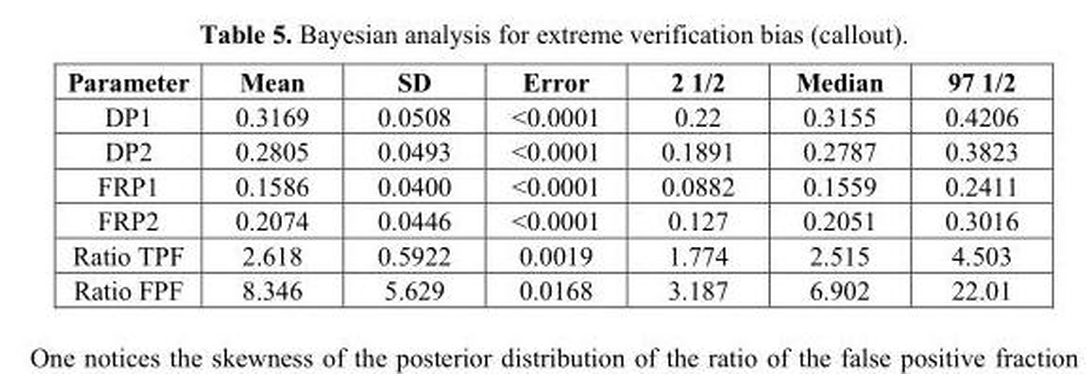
<table><thead><tr><td>Parameter</td><td>Mean</td><td>SD</td><td>Error</td><td>2 1/2</td><td>Median</td><td>97 1/2</td></tr></thead><tbody><tr><td>DP1</td><td>0.3169</td><td>0.0508</td><td>&lt;0.0001</td><td>0.22</td><td>0.3155</td><td>0.4206</td></tr><tr><td>DP2</td><td>0.2805</td><td>0.0493</td><td>&lt;0.0001</td><td>0.1891</td><td>0.2787</td><td>0.3823</td></tr><tr><td>FRP1</td><td>0.1586</td><td>0.0400</td><td>&lt;0.0001</td><td>0.0882</td><td>0.1559</td><td>0.2411</td></tr><tr><td>FRP2</td><td>0.2074</td><td>0.0446</td><td>&lt;0.0001</td><td>0.127</td><td>0.2051</td><td>0.3016</td></tr><tr><td>Ratio TPF</td><td>2.618</td><td>0.5922</td><td>0.0019</td><td>1.774</td><td>2.515</td><td>4.503</td></tr><tr><td>Ratio FPF</td><td>8.346</td><td>5.629</td><td>0.0168</td><td>3.187</td><td>6.902</td><td>22.01</td></tr></tbody></table>